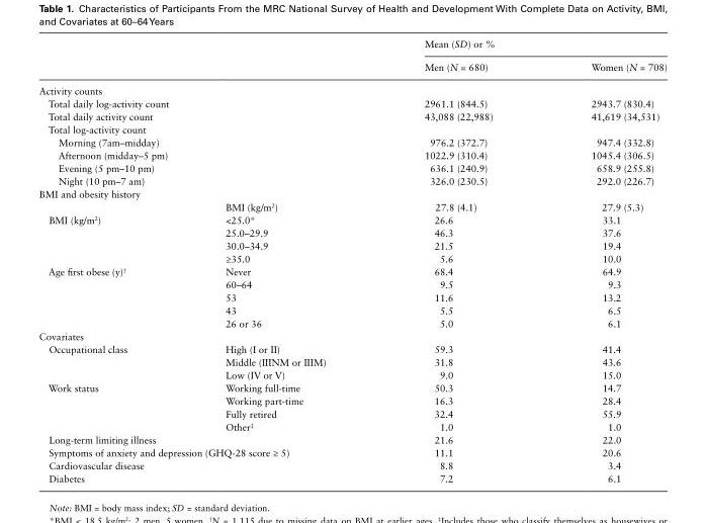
<table><thead><tr><td rowspan="2"></td><td rowspan="2"></td><td colspan="2">Mean (SD) or %</td></tr><tr><td>Men (N = 680)</td><td>Women (N = 708)</td></tr></thead><tbody><tr><td colspan="4">Activity counts</td></tr><tr><td colspan="2">Total daily log-activity count</td><td>2961.1 (844.5)</td><td>2943.7 (830.4)</td></tr><tr><td colspan="2">Total daily activity count</td><td>43,088 (22,988)</td><td>41,619 (34,531)</td></tr><tr><td colspan="4">Total log-activity count</td></tr><tr><td colspan="2">Morning (7am–midday)</td><td>976.2 (372.7)</td><td>947.4 (332.8)</td></tr><tr><td colspan="2">Afternoon (midday–5 pm)</td><td>1022.9 (310.4)</td><td>1045.4 (306.5)</td></tr><tr><td colspan="2">Evening (5 pm–10 pm)</td><td>636.1 (240.9)</td><td>658.9 (255.8)</td></tr><tr><td colspan="2">Night (10 pm–7 am)</td><td>326.0 (230.5)</td><td>292.0 (226.7)</td></tr><tr><td colspan="4">BMI and obesity history</td></tr><tr><td></td><td>BMI (kg/m<sup>2</sup>)</td><td>27.8 (4.1)</td><td>27.9 (5.3)</td></tr><tr><td rowspan="4">BMI (kg/m<sup>2</sup>)</td><td>&lt;25.0*</td><td>26.6</td><td>33.1</td></tr><tr><td>25.0–29.9</td><td>46.3</td><td>37.6</td></tr><tr><td>30.0–34.9</td><td>21.5</td><td>19.4</td></tr><tr><td>≥35.0</td><td>5.6</td><td>10.0</td></tr><tr><td rowspan="5">Age first obese (y)<sup>†</sup></td><td>Never</td><td>68.4</td><td>64.9</td></tr><tr><td>60–64</td><td>9.5</td><td>9.3</td></tr><tr><td>53</td><td>11.6</td><td>13.2</td></tr><tr><td>43</td><td>5.5</td><td>6.5</td></tr><tr><td>26 or 36</td><td>5.0</td><td>6.1</td></tr><tr><td colspan="4">Covariates</td></tr><tr><td rowspan="3">Occupational class</td><td>High (I or II)</td><td>59.3</td><td>41.4</td></tr><tr><td>Middle (IIINM or IIIM)</td><td>31.8</td><td>43.6</td></tr><tr><td>Low (IV or V)</td><td>9.0</td><td>15.0</td></tr><tr><td rowspan="4">Work status</td><td>Working full-time</td><td>50.3</td><td>14.7</td></tr><tr><td>Working part-time</td><td>16.3</td><td>28.4</td></tr><tr><td>Fully retired</td><td>32.4</td><td>55.9</td></tr><tr><td>Other<sup>‡</sup></td><td>1.0</td><td>1.0</td></tr><tr><td colspan="2">Long-term limiting illness</td><td>21.6</td><td>22.0</td></tr><tr><td colspan="2">Symptoms of anxiety and depression (GHQ-28 score ≥ 5)</td><td>11.1</td><td>20.6</td></tr><tr><td colspan="2">Cardiovascular disease</td><td>8.8</td><td>3.4</td></tr><tr><td colspan="2">Diabetes</td><td>7.2</td><td>6.1</td></tr></tbody></table>